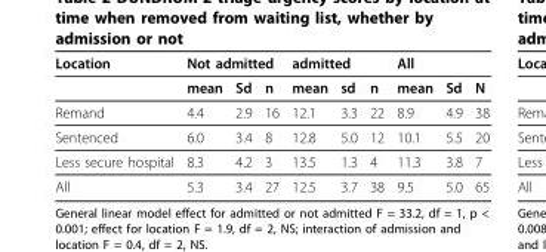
<table><thead><tr><td rowspan="2">Location</td><td colspan="3">Not admitted</td><td colspan="3">admitted</td><td colspan="3">All</td></tr><tr><td>mean</td><td>Sd</td><td>n</td><td>mean</td><td>sd</td><td>n</td><td>mean</td><td>Sd</td><td>N</td></tr></thead><tbody><tr><td>Remand</td><td>4.4</td><td>2.9</td><td>16</td><td>12.1</td><td>3.3</td><td>22</td><td>8.9</td><td>4.9</td><td>38</td></tr><tr><td>Sentenced</td><td>6.0</td><td>3.4</td><td>8</td><td>12.8</td><td>5.0</td><td>12</td><td>10.1</td><td>5.5</td><td>20</td></tr><tr><td>Less secure hospital</td><td>8.3</td><td>4.2</td><td>3</td><td>13.5</td><td>1.3</td><td>4</td><td>11.3</td><td>3.8</td><td>7</td></tr><tr><td>All</td><td>5.3</td><td>3.4</td><td>27</td><td>12.5</td><td>3.7</td><td>38</td><td>9.5</td><td>5.0</td><td>65</td></tr></tbody></table>